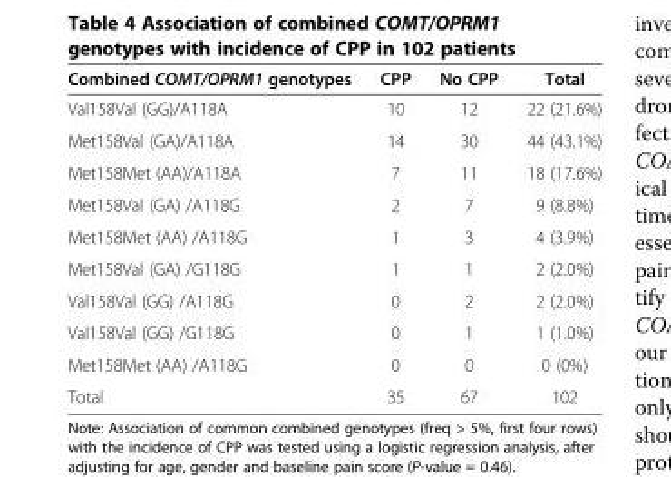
<table><thead><tr><td>Combined COMT/OPRM1 genotypes</td><td>CPP</td><td>No CPP</td><td>Total</td></tr></thead><tbody><tr><td>Val158Val (GG)/A118A</td><td>10</td><td>12</td><td>22 (21.6%)</td></tr><tr><td>Met158Val (GA)/A118A</td><td>14</td><td>30</td><td>44 (43.1%)</td></tr><tr><td>Met158Met (AA)/A118A</td><td>7</td><td>11</td><td>18 (17.6%)</td></tr><tr><td>Met158Val (GA) /A118G</td><td>2</td><td>7</td><td>9 (8.8%)</td></tr><tr><td>Met158Met (AA) /A118G</td><td>1</td><td>3</td><td>4 (3.9%)</td></tr><tr><td>Met158Val (GA) /G118G</td><td>1</td><td>1</td><td>2 (2.0%)</td></tr><tr><td>Val158Val (GG) /A118G</td><td>0</td><td>2</td><td>2 (2.0%)</td></tr><tr><td>Val158Val (GG) /G118G</td><td>0</td><td>1</td><td>1 (1.0%)</td></tr><tr><td>Met158Met (AA) /A118G</td><td>0</td><td>0</td><td>0 (0%)</td></tr><tr><td>Total</td><td>35</td><td>67</td><td>102</td></tr></tbody></table>